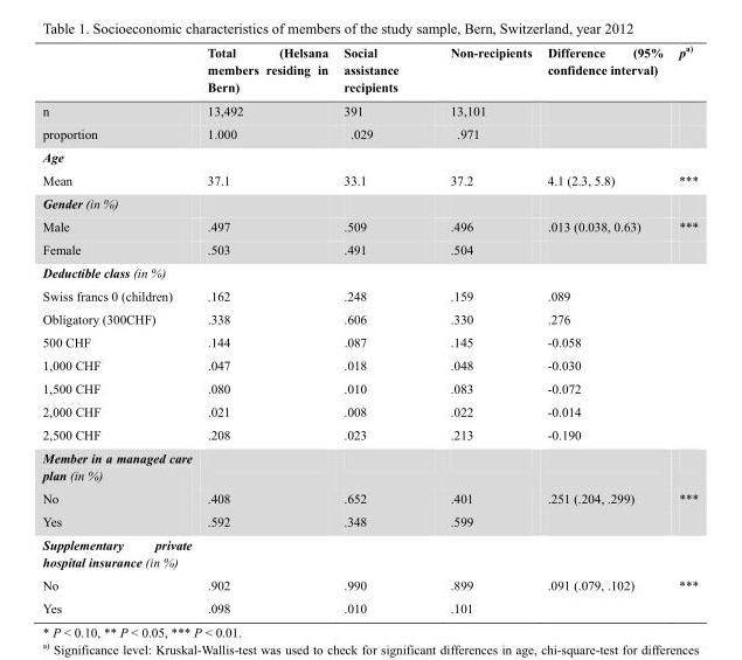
<table><thead><tr><td></td><td>Total (Helsana members residing in Bern)</td><td>Social assistance recipients</td><td>Non-recipients</td><td>Difference (95% confidence interval)</td><td>p<sup>a)</sup></td></tr></thead><tbody><tr><td>n</td><td>13,492</td><td>391</td><td>13,101</td><td></td><td></td></tr><tr><td>proportion</td><td>1.000</td><td>.029</td><td>.971</td><td></td><td></td></tr><tr><td colspan="6">Age</td></tr><tr><td>Mean</td><td>37.1</td><td>33.1</td><td>37.2</td><td>4.1 (2.3, 5.8)</td><td>***</td></tr><tr><td colspan="6">Gender (in %)</td></tr><tr><td>Male</td><td>.497</td><td>.509</td><td>.496</td><td>.013 (0.038, 0.63)</td><td>***</td></tr><tr><td>Female</td><td>.503</td><td>.491</td><td>.504</td><td></td><td></td></tr><tr><td colspan="6">Deductible class (in %)</td></tr><tr><td>Swiss francs 0 (children)</td><td>.162</td><td>.248</td><td>.159</td><td>.089</td><td></td></tr><tr><td>Obligatory (300CHF)</td><td>.338</td><td>.606</td><td>.330</td><td>.276</td><td></td></tr><tr><td>500 CHF</td><td>.144</td><td>.087</td><td>.145</td><td>-0.058</td><td></td></tr><tr><td>1,000 CHF</td><td>.047</td><td>.018</td><td>.048</td><td>-0.030</td><td></td></tr><tr><td>1,500 CHF</td><td>.080</td><td>.010</td><td>.083</td><td>-0.072</td><td></td></tr><tr><td>2,000 CHF</td><td>.021</td><td>.008</td><td>.022</td><td>-0.014</td><td></td></tr><tr><td>2,500 CHF</td><td>.208</td><td>.023</td><td>.213</td><td>-0.190</td><td></td></tr><tr><td colspan="6">Member in a managed care plan (in %)</td></tr><tr><td>No</td><td>.408</td><td>.652</td><td>.401</td><td>.251 (.204, .299)</td><td>***</td></tr><tr><td>Yes</td><td>.592</td><td>.348</td><td>.599</td><td></td><td></td></tr><tr><td colspan="6">Supplementary private hospital insurance (in %)</td></tr><tr><td>No</td><td>.902</td><td>.990</td><td>.899</td><td>.091 (.079, .102)</td><td>***</td></tr><tr><td>Yes</td><td>.098</td><td>.010</td><td>.101</td><td></td><td></td></tr></tbody></table>